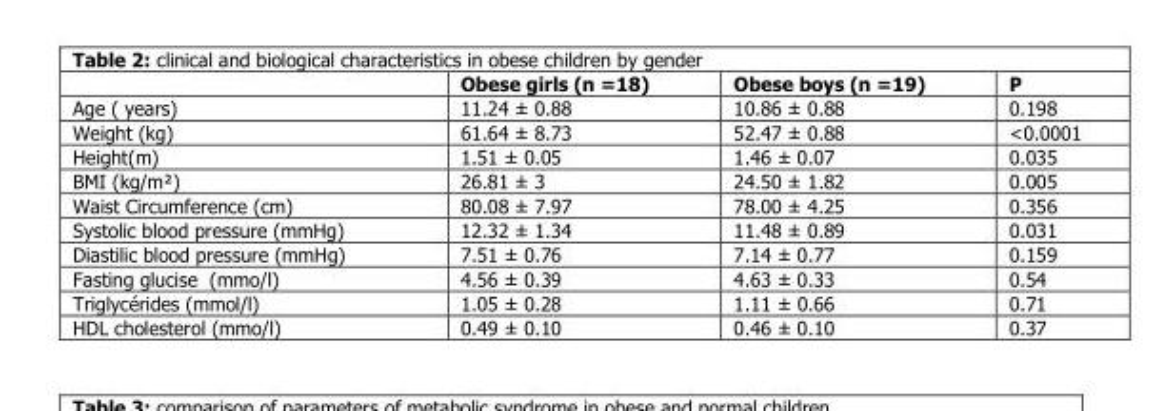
<table><thead><tr><td></td><td>Obese girls (n =18)</td><td>Obese boys (n =19)</td><td>P</td></tr></thead><tbody><tr><td>Age ( years)</td><td>11.24 ± 0.88</td><td>10.86 ± 0.88</td><td>0.198</td></tr><tr><td>Weight (kg)</td><td>61.64 ± 8.73</td><td>52.47 ± 0.88</td><td>&lt;0.0001</td></tr><tr><td>Height(m)</td><td>1.51 ± 0.05</td><td>1.46 ± 0.07</td><td>0.035</td></tr><tr><td>BMI (kg/m²)</td><td>26.81 ± 3</td><td>24.50 ± 1.82</td><td>0.005</td></tr><tr><td>Waist Circumference (cm)</td><td>80.08 ± 7.97</td><td>78.00 ± 4.25</td><td>0.356</td></tr><tr><td>Systolic blood pressure (mmHg)</td><td>12.32 ± 1.34</td><td>11.48 ± 0.89</td><td>0.031</td></tr><tr><td>Diastilic blood pressure (mmHg)</td><td>7.51 ± 0.76</td><td>7.14 ± 0.77</td><td>0.159</td></tr><tr><td>Fasting glucise (mmo/l)</td><td>4.56 ± 0.39</td><td>4.63 ± 0.33</td><td>0.54</td></tr><tr><td>Triglycérides (mmol/l)</td><td>1.05 ± 0.28</td><td>1.11 ± 0.66</td><td>0.71</td></tr><tr><td>HDL cholesterol (mmo/l)</td><td>0.49 ± 0.10</td><td>0.46 ± 0.10</td><td>0.37</td></tr></tbody></table>